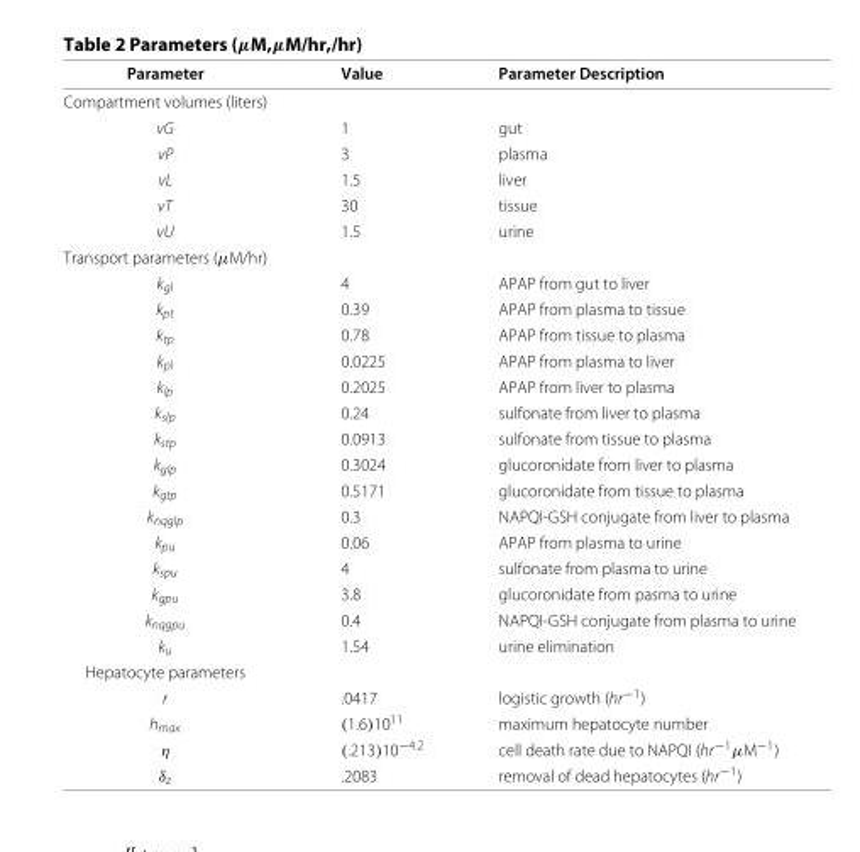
<table><thead><tr><td>Parameter</td><td>Value</td><td>Parameter Description</td></tr></thead><tbody><tr><td colspan="3">Compartment volumes (liters)</td></tr><tr><td>vG</td><td>1</td><td>gut</td></tr><tr><td>vP</td><td>3</td><td>plasma</td></tr><tr><td>vL</td><td>1.5</td><td>liver</td></tr><tr><td>vT</td><td>30</td><td>tissue</td></tr><tr><td>vU</td><td>1.5</td><td>urine</td></tr><tr><td colspan="3">Transport parameters (μM/hr)</td></tr><tr><td>k<sub>gl</sub></td><td>4</td><td>APAP from gut to liver</td></tr><tr><td>k<sub>pt</sub></td><td>0.39</td><td>APAP from plasma to tissue</td></tr><tr><td>k<sub>tp</sub></td><td>0.78</td><td>APAP from tissue to plasma</td></tr><tr><td>k<sub>pl</sub></td><td>0.0225</td><td>APAP from plasma to liver</td></tr><tr><td>k<sub>lp</sub></td><td>0.2025</td><td>APAP from liver to plasma</td></tr><tr><td>k<sub>slp</sub></td><td>0.24</td><td>sulfonate from liver to plasma</td></tr><tr><td>k<sub>stp</sub></td><td>0.0913</td><td>sulfonate from tissue to plasma</td></tr><tr><td>k<sub>glp</sub></td><td>0.3024</td><td>glucoronidate from liver to plasma</td></tr><tr><td>k<sub>gtp</sub></td><td>0.5171</td><td>glucoronidate from tissue to plasma</td></tr><tr><td>k<sub>nqglp</sub></td><td>0.3</td><td>NAPQI-GSH conjugate from liver to plasma</td></tr><tr><td>k<sub>pu</sub></td><td>0.06</td><td>APAP from plasma to urine</td></tr><tr><td>k<sub>spu</sub></td><td>4</td><td>sulfonate from plasma to urine</td></tr><tr><td>k<sub>gpu</sub></td><td>3.8</td><td>glucoronidate from pasma to urine</td></tr><tr><td>k<sub>nqgpu</sub></td><td>0.4</td><td>NAPQI-GSH conjugate from plasma to urine</td></tr><tr><td>k<sub>u</sub></td><td>1.54</td><td>urine elimination</td></tr><tr><td colspan="3">Hepatocyte parameters</td></tr><tr><td>r</td><td>.0417</td><td>logistic growth (hr<sup>−1</sup>)</td></tr><tr><td>h<sub>max</sub></td><td>(1.6)10<sup>11</sup></td><td>maximum hepatocyte number</td></tr><tr><td>η</td><td>(.213)10<sup>−4.2</sup></td><td>cell death rate due to NAPQI (hr<sup>−1</sup>μM<sup>−1</sup>)</td></tr><tr><td>δ<sub>z</sub></td><td>.2083</td><td>removal of dead hepatocytes (hr<sup>−1</sup>)</td></tr></tbody></table>